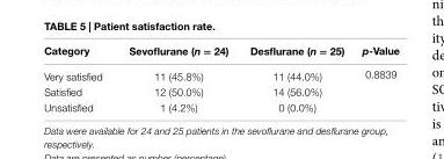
<table><thead><tr><td>category</td><td>sevoflurane (n = 24)</td><td>Desflurane (n = 25)</td><td>p-Value</td></tr></thead><tbody><tr><td>Very satisfied</td><td>11 (45.8%)</td><td>11 (44.0%)</td><td rowspan="3">0.8839</td></tr><tr><td>Satisfied</td><td>12 (50.0%)</td><td>14 (56.0%)</td></tr><tr><td>Unsatisfied</td><td>1 (4.2%)</td><td>0 (0.0%)</td></tr></tbody></table>